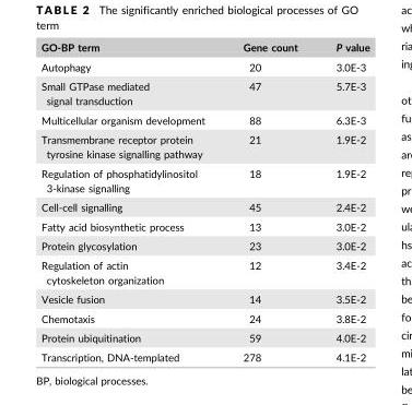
<table><thead><tr><td>GO-BP term</td><td>Gene count</td><td>P value</td></tr></thead><tbody><tr><td>Autophagy</td><td>20</td><td>3.0E-3</td></tr><tr><td>Small GTPase mediated signal transduction</td><td>47</td><td>5.7E-3</td></tr><tr><td>Multicellular organism development</td><td>88</td><td>6.3E-3</td></tr><tr><td>Transmembrane receptor protein tyrosine kinase signalling pathway</td><td>21</td><td>1.9E-2</td></tr><tr><td>Regulation of phosphatidylinositol 3-kinase signalling</td><td>18</td><td>1.9E-2</td></tr><tr><td>Cell-cell signalling</td><td>45</td><td>2.4E-2</td></tr><tr><td>Fatty acid biosynthetic process</td><td>13</td><td>3.0E-2</td></tr><tr><td>Protein glycosylation</td><td>23</td><td>3.0E-2</td></tr><tr><td>Regulation of actin cytoskeleton organization</td><td>12</td><td>3.4E-2</td></tr><tr><td>Vesicle fusion</td><td>14</td><td>3.5E-2</td></tr><tr><td>Chemotaxis</td><td>24</td><td>3.8E-2</td></tr><tr><td>Protein ubiquitination</td><td>59</td><td>4.0E-2</td></tr><tr><td>Transcription, DNA-templated</td><td>278</td><td>4.1E-2</td></tr></tbody></table>